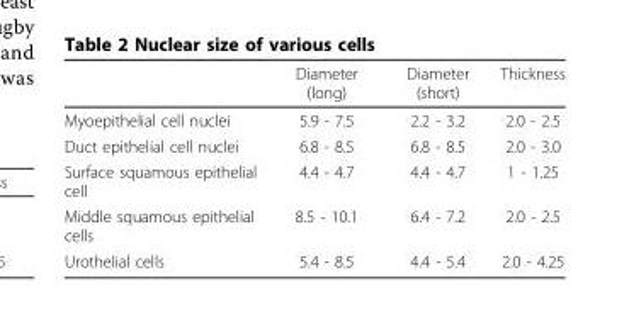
<table><thead><tr><td></td><td>Diameter (long)</td><td>Diameter (short)</td><td>Thickness</td></tr></thead><tbody><tr><td>Myoepithelial cell nuclei</td><td>5.9 - 7.5</td><td>2.2 - 3.2</td><td>2.0 - 2.5</td></tr><tr><td>Duct epithelial cell nuclei</td><td>6.8 - 8.5</td><td>6.8 - 8.5</td><td>2.0 - 3.0</td></tr><tr><td>Surface squamous epithelial cell</td><td>4.4 - 4.7</td><td>4.4 - 4.7</td><td>1 - 1.25</td></tr><tr><td>Middle squamous epithelial cells</td><td>8.5 - 10.1</td><td>6.4 - 7.2</td><td>2.0 - 2.5</td></tr><tr><td>Urothelial cells</td><td>5.4 - 8.5</td><td>4.4 - 5.4</td><td>2.0 - 4.25</td></tr></tbody></table>